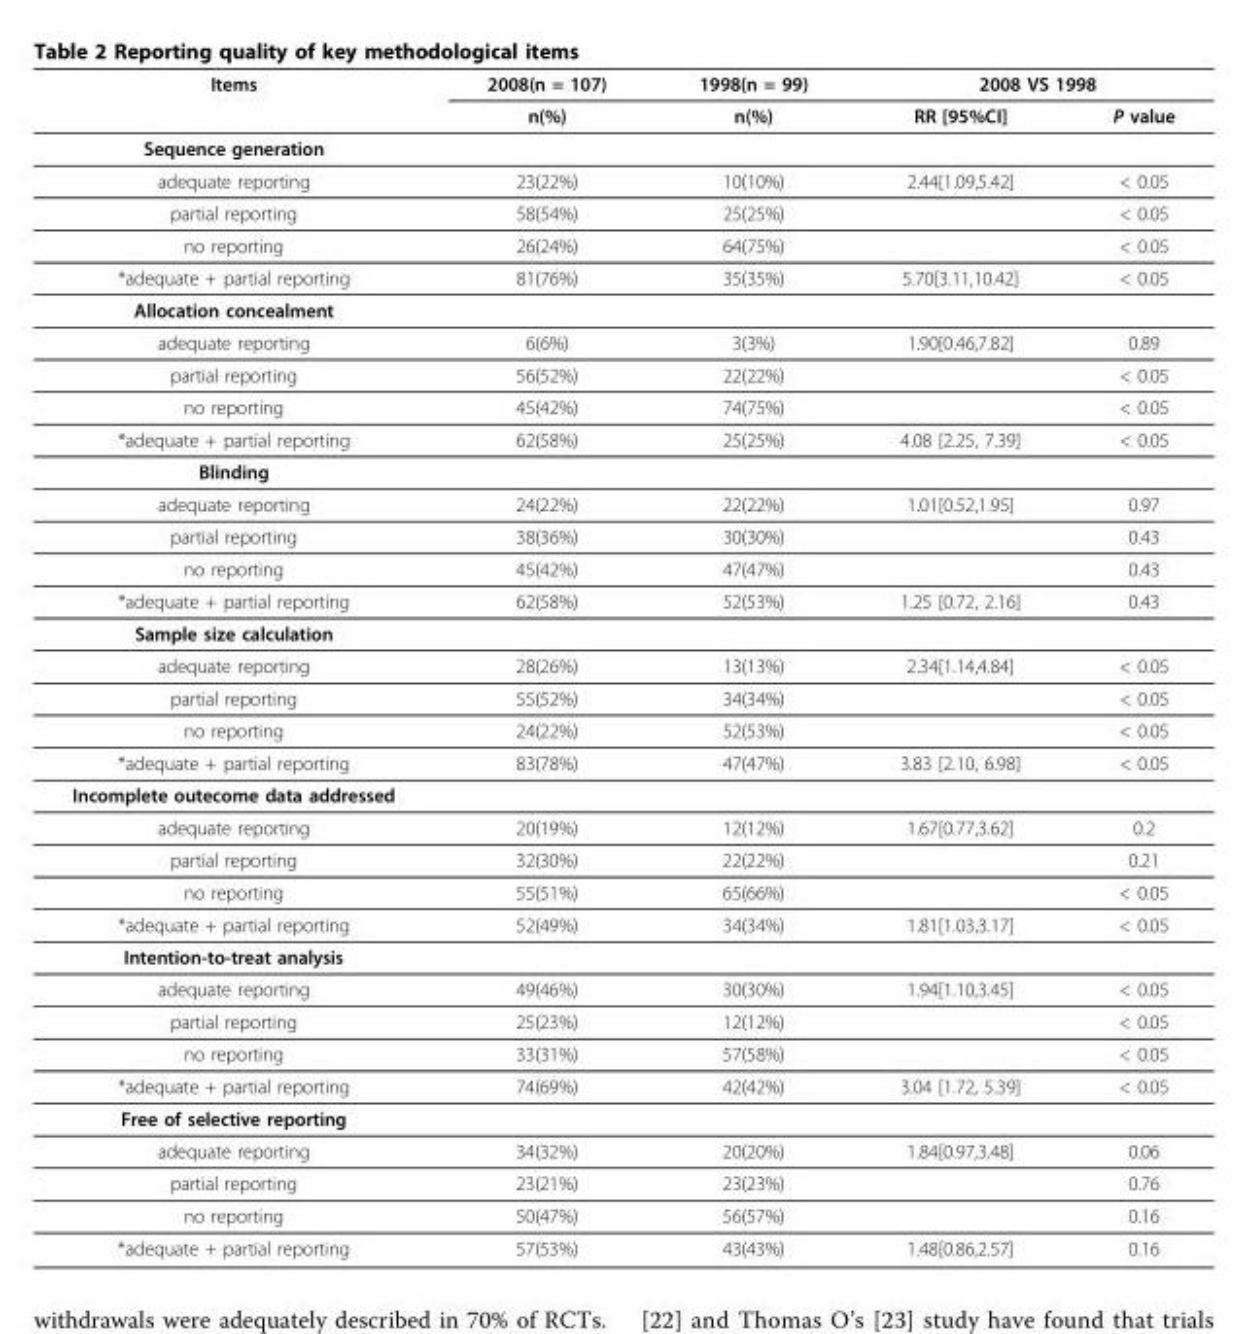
<table><thead><tr><td rowspan="2">Items</td><td rowspan="2">2008(n = 107) n(%)</td><td rowspan="2">1998(n = 99) n(%)</td><td colspan="2">2008 VS 1998</td></tr><tr><td>RR [95%CI]</td><td>P value</td></tr></thead><tbody><tr><td colspan="5">Sequence generation</td></tr><tr><td>adequate reporting</td><td>23(22%)</td><td>10(10%)</td><td>2.44[1.09,5.42]</td><td>&lt; 0.05</td></tr><tr><td>partial reporting</td><td>58(54%)</td><td>25(25%)</td><td></td><td>&lt; 0.05</td></tr><tr><td>no reporting</td><td>26(24%)</td><td>64(75%)</td><td></td><td>&lt; 0.05</td></tr><tr><td>*adequate + partial reporting</td><td>81(76%)</td><td>35(35%)</td><td>5.70[3.11,10.42]</td><td>&lt; 0.05</td></tr><tr><td colspan="5">Allocation concealment</td></tr><tr><td>adequate reporting</td><td>6(6%)</td><td>3(3%)</td><td>1.90[0.46,7.82]</td><td>0.89</td></tr><tr><td>partial reporting</td><td>56(52%)</td><td>22(22%)</td><td></td><td>&lt; 0.05</td></tr><tr><td>no reporting</td><td>45(42%)</td><td>74(75%)</td><td></td><td>&lt; 0.05</td></tr><tr><td>*adequate + partial reporting</td><td>62(58%)</td><td>25(25%)</td><td>4.08 [2.25, 7.39]</td><td>&lt; 0.05</td></tr><tr><td colspan="5">Blinding</td></tr><tr><td>adequate reporting</td><td>24(22%)</td><td>22(22%)</td><td>1.01[0.52,1.95]</td><td>0.97</td></tr><tr><td>partial reporting</td><td>38(36%)</td><td>30(30%)</td><td></td><td>0.43</td></tr><tr><td>no reporting</td><td>45(42%)</td><td>47(47%)</td><td></td><td>0.43</td></tr><tr><td>*adequate + partial reporting</td><td>62(58%)</td><td>52(53%)</td><td>1.25 [0.72, 2.16]</td><td>0.43</td></tr><tr><td colspan="5">Sample size calculation</td></tr><tr><td>adequate reporting</td><td>28(26%)</td><td>13(13%)</td><td>2.34[1.14,4.84]</td><td>&lt; 0.05</td></tr><tr><td>partial reporting</td><td>55(52%)</td><td>34(34%)</td><td></td><td>&lt; 0.05</td></tr><tr><td>no reporting</td><td>24(22%)</td><td>52(53%)</td><td></td><td>&lt; 0.05</td></tr><tr><td>*adequate + partial reporting</td><td>83(78%)</td><td>47(47%)</td><td>3.83 [2.10, 6.98]</td><td>&lt; 0.05</td></tr><tr><td colspan="5">Incomplete outecome data addressed</td></tr><tr><td>adequate reporting</td><td>20(19%)</td><td>12(12%)</td><td>1.67[0.77,3.62]</td><td>0.2</td></tr><tr><td>partial reporting</td><td>32(30%)</td><td>22(22%)</td><td></td><td>0.21</td></tr><tr><td>no reporting</td><td>55(51%)</td><td>65(66%)</td><td></td><td>&lt; 0.05</td></tr><tr><td>*adequate + partial reporting</td><td>52(49%)</td><td>34(34%)</td><td>1.81[1.03,3.17]</td><td>&lt; 0.05</td></tr><tr><td colspan="5">Intention-to-treat analysis</td></tr><tr><td>adequate reporting</td><td>49(46%)</td><td>30(30%)</td><td>1.94[1.10,3.45]</td><td>&lt; 0.05</td></tr><tr><td>partial reporting</td><td>25(23%)</td><td>12(12%)</td><td></td><td>&lt; 0.05</td></tr><tr><td>no reporting</td><td>33(31%)</td><td>57(58%)</td><td></td><td>&lt; 0.05</td></tr><tr><td>*adequate + partial reporting</td><td>74(69%)</td><td>42(42%)</td><td>3.04 [1.72, 5.39]</td><td>&lt; 0.05</td></tr><tr><td colspan="5">Free of selective reporting</td></tr><tr><td>adequate reporting</td><td>34(32%)</td><td>20(20%)</td><td>1.84[0.97,3.48]</td><td>0.06</td></tr><tr><td>partial reporting</td><td>23(21%)</td><td>23(23%)</td><td></td><td>0.76</td></tr><tr><td>no reporting</td><td>50(47%)</td><td>56(57%)</td><td></td><td>0.16</td></tr><tr><td>*adequate + partial reporting</td><td>57(53%)</td><td>43(43%)</td><td>1.48[0.86,2.57]</td><td>0.16</td></tr></tbody></table>